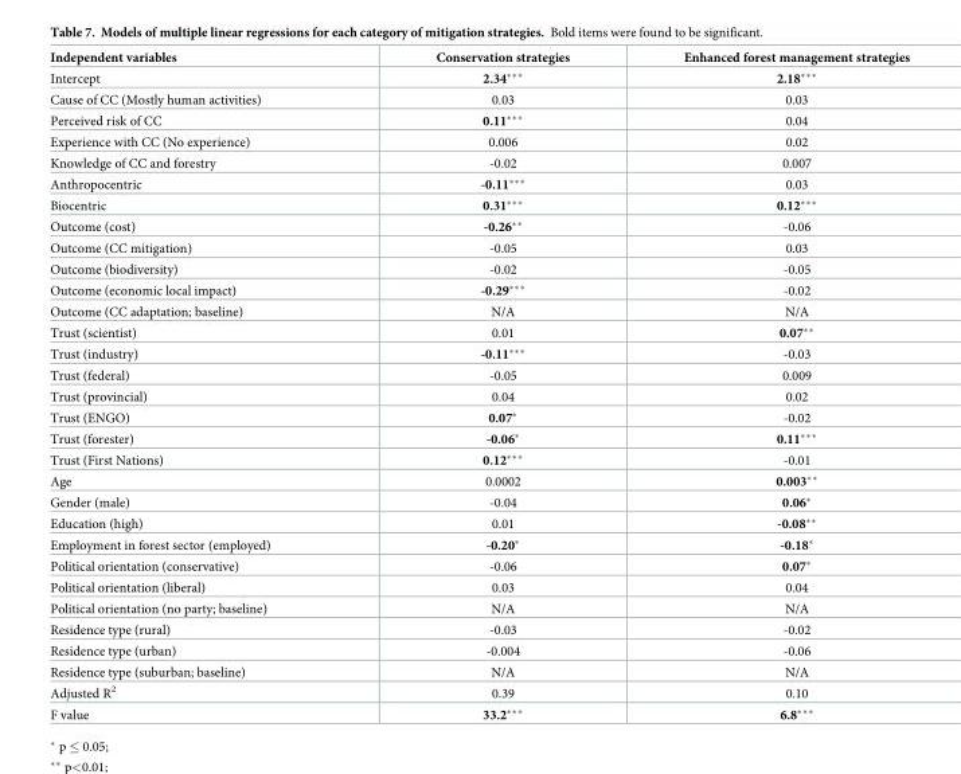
<table><thead><tr><td>Independent variables</td><td>Conservation strategies</td><td>Enhanced forest management strategies</td></tr></thead><tbody><tr><td>Intercept</td><td>2.34***</td><td>2.18***</td></tr><tr><td>Cause of CC (Mostly human activities)</td><td>0.03</td><td>0.03</td></tr><tr><td>Perceived risk of CC</td><td>0.11***</td><td>0.04</td></tr><tr><td>Experience with CC (No experience)</td><td>0.006</td><td>0.02</td></tr><tr><td>Knowledge of CC and forestry</td><td>-0.02</td><td>0.007</td></tr><tr><td>Anthropocentric</td><td>-0.11***</td><td>0.03</td></tr><tr><td>Biocentric</td><td>0.31***</td><td>0.12***</td></tr><tr><td>Outcome (cost)</td><td>-0.26**</td><td>-0.06</td></tr><tr><td>Outcome (CC mitigation)</td><td>-0.05</td><td>0.03</td></tr><tr><td>Outcome (biodiversity)</td><td>-0.02</td><td>-0.05</td></tr><tr><td>Outcome (economic local impact)</td><td>-0.29***</td><td>-0.02</td></tr><tr><td>Outcome (CC adaptation; baseline)</td><td>N/A</td><td>N/A</td></tr><tr><td>Trust (scientist)</td><td>0.01</td><td>0.07**</td></tr><tr><td>Trust (industry)</td><td>-0.11***</td><td>-0.03</td></tr><tr><td>Trust (federal)</td><td>-0.05</td><td>0.009</td></tr><tr><td>Trust (provincial)</td><td>0.04</td><td>0.02</td></tr><tr><td>Trust (ENGO)</td><td>0.07*</td><td>-0.02</td></tr><tr><td>Trust (forester)</td><td>-0.06*</td><td>0.11***</td></tr><tr><td>Trust (First Nations)</td><td>0.12***</td><td>-0.01</td></tr><tr><td>Age</td><td>0.0002</td><td>0.003**</td></tr><tr><td>Gender (male)</td><td>-0.04</td><td>0.06*</td></tr><tr><td>Education (high)</td><td>0.01</td><td>-0.08**</td></tr><tr><td>Employment in forest sector (employed)</td><td>-0.20*</td><td>-0.18*</td></tr><tr><td>Political orientation (conservative)</td><td>-0.06</td><td>0.07*</td></tr><tr><td>Political orientation (liberal)</td><td>0.03</td><td>0.04</td></tr><tr><td>Political orientation (no party; baseline)</td><td>N/A</td><td>N/A</td></tr><tr><td>Residence type (rural)</td><td>-0.03</td><td>-0.02</td></tr><tr><td>Residence type (urban)</td><td>-0.004</td><td>-0.06</td></tr><tr><td>Residence type (suburban; baseline)</td><td>N/A</td><td>N/A</td></tr><tr><td>Adjusted R<sup>2</sup></td><td>0.39</td><td>0.10</td></tr><tr><td>F value</td><td>33.2***</td><td>6.8***</td></tr></tbody></table>